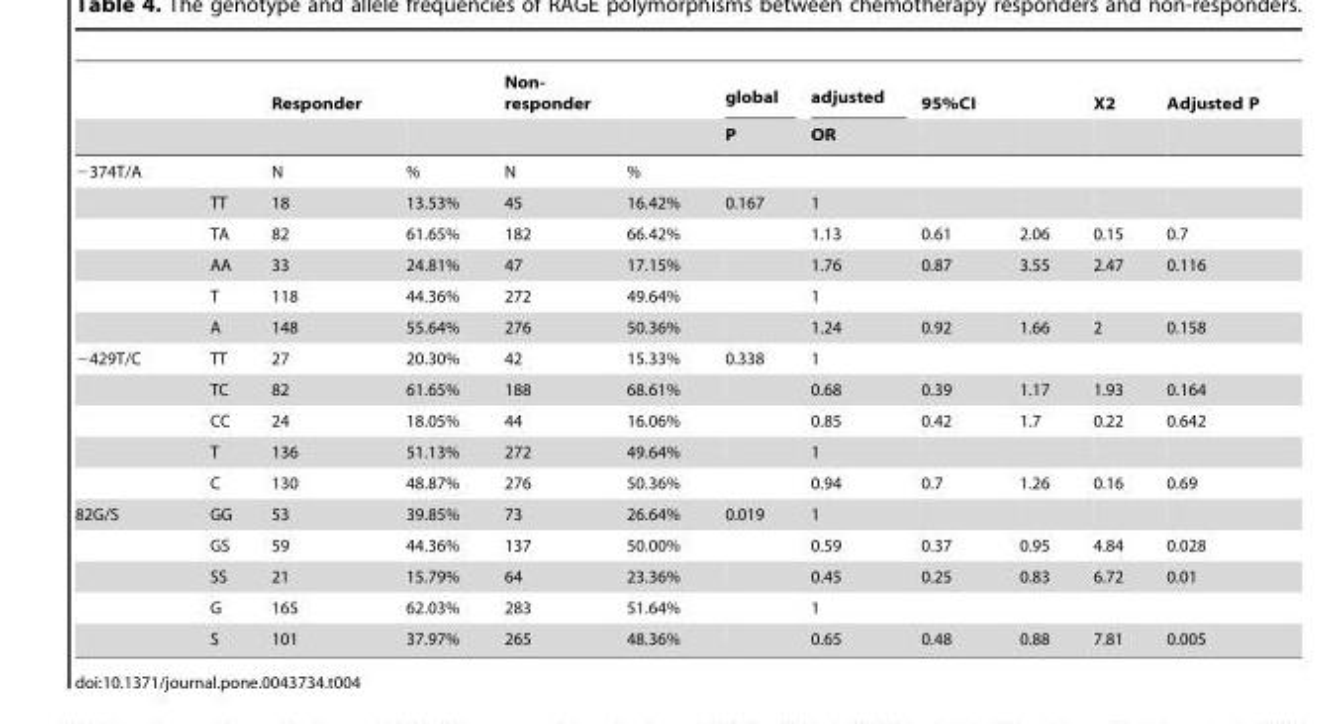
<table><thead><tr><td rowspan="2"></td><td rowspan="2"></td><td rowspan="2">Responder</td><td rowspan="2"></td><td rowspan="2">Non- responder</td><td rowspan="2"></td><td rowspan="2">global P</td><td rowspan="2">adjusted OR</td><td rowspan="2">95%CI</td><td rowspan="2"></td><td rowspan="2">X2</td><td rowspan="2">Adjusted P</td></tr><tr></tr></thead><tbody><tr><td rowspan="6">−374T/A</td><td></td><td>N</td><td>%</td><td>N</td><td>%</td><td></td><td></td><td></td><td></td><td></td><td></td></tr><tr><td>TT</td><td>18</td><td>13.53%</td><td>45</td><td>16.42%</td><td>0.167</td><td>1</td><td></td><td></td><td></td><td></td></tr><tr><td>TA</td><td>82</td><td>61.65%</td><td>182</td><td>66.42%</td><td></td><td>1.13</td><td>0.61</td><td>2.06</td><td>0.15</td><td>0.7</td></tr><tr><td>AA</td><td>33</td><td>24.81%</td><td>47</td><td>17.15%</td><td></td><td>1.76</td><td>0.87</td><td>3.55</td><td>2.47</td><td>0.116</td></tr><tr><td>T</td><td>118</td><td>44.36%</td><td>272</td><td>49.64%</td><td></td><td>1</td><td></td><td></td><td></td><td></td></tr><tr><td>A</td><td>148</td><td>55.64%</td><td>276</td><td>50.36%</td><td></td><td>1.24</td><td>0.92</td><td>1.66</td><td>2</td><td>0.158</td></tr><tr><td rowspan="5">−429T/C</td><td>TT</td><td>27</td><td>20.30%</td><td>42</td><td>15.33%</td><td>0.338</td><td>1</td><td></td><td></td><td></td><td></td></tr><tr><td>TC</td><td>82</td><td>61.65%</td><td>188</td><td>68.61%</td><td></td><td>0.68</td><td>0.39</td><td>1.17</td><td>1.93</td><td>0.164</td></tr><tr><td>CC</td><td>24</td><td>18.05%</td><td>44</td><td>16.06%</td><td></td><td>0.85</td><td>0.42</td><td>1.7</td><td>0.22</td><td>0.642</td></tr><tr><td>T</td><td>136</td><td>51.13%</td><td>272</td><td>49.64%</td><td></td><td>1</td><td></td><td></td><td></td><td></td></tr><tr><td>C</td><td>130</td><td>48.87%</td><td>276</td><td>50.36%</td><td></td><td>0.94</td><td>0.7</td><td>1.26</td><td>0.16</td><td>0.69</td></tr><tr><td rowspan="5">82G/S</td><td>GG</td><td>53</td><td>39.85%</td><td>73</td><td>26.64%</td><td>0.019</td><td>1</td><td></td><td></td><td></td><td></td></tr><tr><td>GS</td><td>59</td><td>44.36%</td><td>137</td><td>50.00%</td><td></td><td>0.59</td><td>0.37</td><td>0.95</td><td>4.84</td><td>0.028</td></tr><tr><td>SS</td><td>21</td><td>15.79%</td><td>64</td><td>23.36%</td><td></td><td>0.45</td><td>0.25</td><td>0.83</td><td>6.72</td><td>0.01</td></tr><tr><td>G</td><td>165</td><td>62.03%</td><td>283</td><td>51.64%</td><td></td><td>1</td><td></td><td></td><td></td><td></td></tr><tr><td>S</td><td>101</td><td>37.97%</td><td>265</td><td>48.36%</td><td></td><td>0.65</td><td>0.48</td><td>0.88</td><td>7.81</td><td>0.005</td></tr></tbody></table>